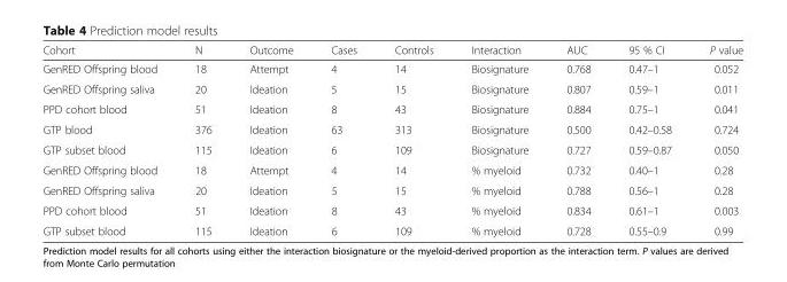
<table><thead><tr><td>Cohort</td><td>N</td><td>Outcome</td><td>Cases</td><td>Controls</td><td>Interaction</td><td>AUC</td><td>95 % CI</td><td>P value</td></tr></thead><tbody><tr><td>GenRED Offspring blood</td><td>18</td><td>Attempt</td><td>4</td><td>14</td><td>Biosignature</td><td>0.768</td><td>0.47–1</td><td>0.052</td></tr><tr><td>GenRED Offspring saliva</td><td>20</td><td>Ideation</td><td>5</td><td>15</td><td>Biosignature</td><td>0.807</td><td>0.59–1</td><td>0.011</td></tr><tr><td>PPD cohort blood</td><td>51</td><td>Ideation</td><td>8</td><td>43</td><td>Biosignature</td><td>0.884</td><td>0.75–1</td><td>0.041</td></tr><tr><td>GTP blood</td><td>376</td><td>Ideation</td><td>63</td><td>313</td><td>Biosignature</td><td>0.500</td><td>0.42–0.58</td><td>0.724</td></tr><tr><td>GTP subset blood</td><td>115</td><td>Ideation</td><td>6</td><td>109</td><td>Biosignature</td><td>0.727</td><td>0.59–0.87</td><td>0.050</td></tr><tr><td>GenRED Offspring blood</td><td>18</td><td>Attempt</td><td>4</td><td>14</td><td>% myeloid</td><td>0.732</td><td>0.40–1</td><td>0.28</td></tr><tr><td>GenRED Offspring saliva</td><td>20</td><td>Ideation</td><td>5</td><td>15</td><td>% myeloid</td><td>0.788</td><td>0.56–1</td><td>0.28</td></tr><tr><td>PPD cohort blood</td><td>51</td><td>Ideation</td><td>8</td><td>43</td><td>% myeloid</td><td>0.834</td><td>0.61–1</td><td>0.003</td></tr><tr><td>GTP subset blood</td><td>115</td><td>Ideation</td><td>6</td><td>109</td><td>% myeloid</td><td>0.728</td><td>0.55–0.9</td><td>0.99</td></tr></tbody></table>